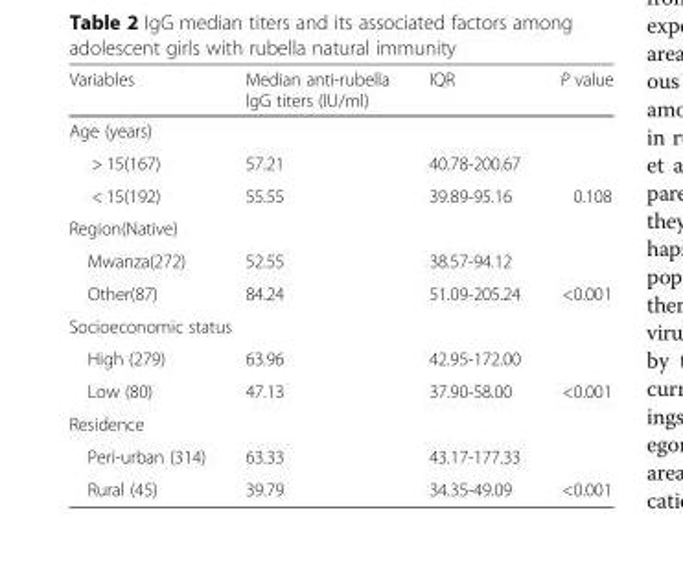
<table><thead><tr><td>Variables</td><td>Median anti-rubella IgG titers (IU/ml)</td><td>IQR</td><td>P value</td></tr></thead><tbody><tr><td colspan="4">Age (years)</td></tr><tr><td>&gt; 15(167)</td><td>57.21</td><td>40.78-200.67</td><td></td></tr><tr><td>&lt; 15(192)</td><td>55.55</td><td>39.89-95.16</td><td>0.108</td></tr><tr><td colspan="4">Region(Native)</td></tr><tr><td>Mwanza(272)</td><td>52.55</td><td>38.57-94.12</td><td></td></tr><tr><td>Other(87)</td><td>84.24</td><td>51.09-205.24</td><td>&lt;0.001</td></tr><tr><td colspan="4">Socioeconomic status</td></tr><tr><td>High (279)</td><td>63.96</td><td>42.95-172.00</td><td></td></tr><tr><td>Low (80)</td><td>47.13</td><td>37.90-58.00</td><td>&lt;0.001</td></tr><tr><td colspan="4">Residence</td></tr><tr><td>Peri-urban (314)</td><td>63.33</td><td>43.17-177.33</td><td></td></tr><tr><td>Rural (45)</td><td>39.79</td><td>34.35-49.09</td><td>&lt;0.001</td></tr></tbody></table>